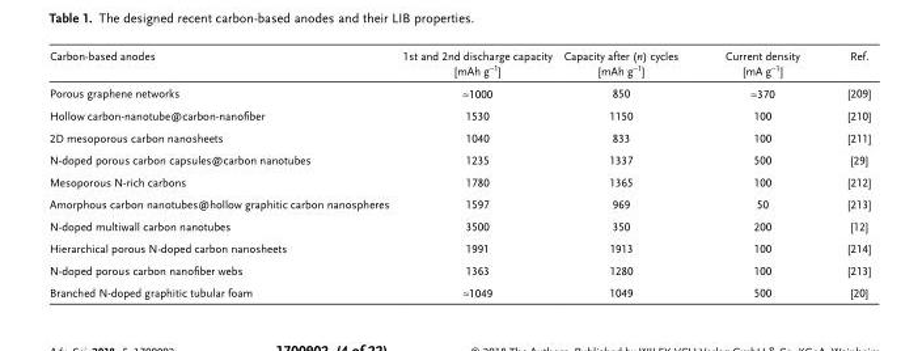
<table><thead><tr><td>Carbon-based anodes</td><td>1st and 2nd discharge capacity [mAh g<sup>−1</sup>]</td><td>Capacity after (n) cycles [mAh g<sup>−1</sup>]</td><td>Current density [mA g<sup>−1</sup>]</td><td>Ref.</td></tr></thead><tbody><tr><td>Porous graphene networks</td><td>≈1000</td><td>850</td><td>≈370</td><td>[209]</td></tr><tr><td>Hollow carbon-nanotube@carbon-nanofiber</td><td>1530</td><td>1150</td><td>100</td><td>[210]</td></tr><tr><td>2D mesoporous carbon nanosheets</td><td>1040</td><td>833</td><td>100</td><td>[211]</td></tr><tr><td>N-doped porous carbon capsules@carbon nanotubes</td><td>1235</td><td>1337</td><td>500</td><td>[29]</td></tr><tr><td>Mesoporous N-rich carbons</td><td>1780</td><td>1365</td><td>100</td><td>[212]</td></tr><tr><td>Amorphous carbon nanotubes@hollow graphitic carbon nanospheres</td><td>1597</td><td>969</td><td>50</td><td>[213]</td></tr><tr><td>N-doped multiwall carbon nanotubes</td><td>3500</td><td>350</td><td>200</td><td>[12]</td></tr><tr><td>Hierarchical porous N-doped carbon nanosheets</td><td>1991</td><td>1913</td><td>100</td><td>[214]</td></tr><tr><td>N-doped porous carbon nanofiber webs</td><td>1363</td><td>1280</td><td>100</td><td>[213]</td></tr><tr><td>Branched N-doped graphitic tubular foam</td><td>≈1049</td><td>1049</td><td>500</td><td>[20]</td></tr></tbody></table>